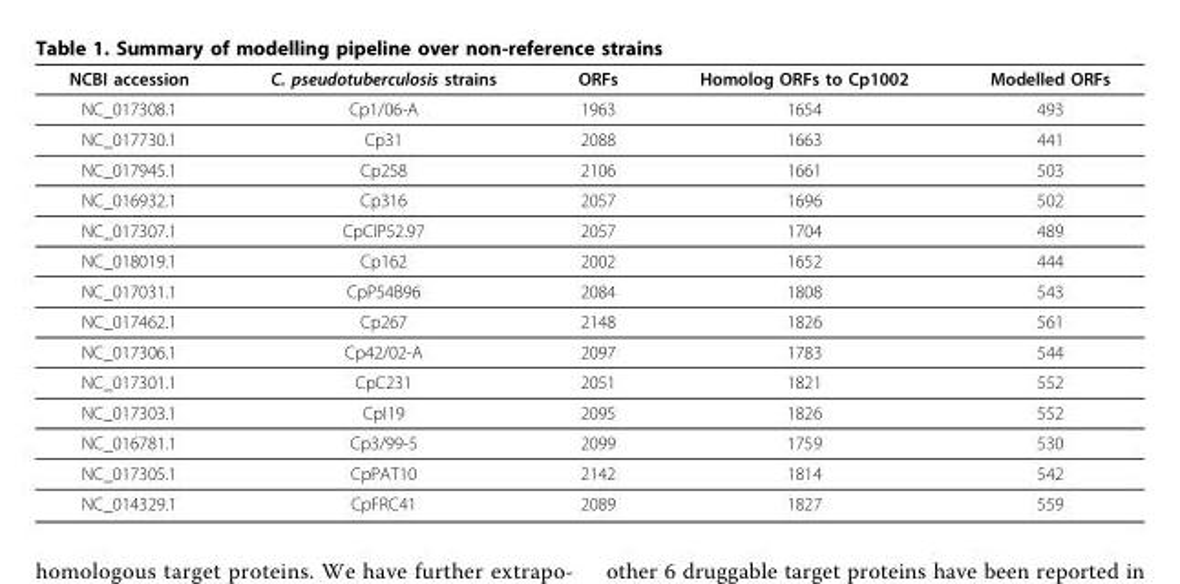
<table><thead><tr><td>NCBI accession</td><td>C. pseudotuberculosis strains</td><td>ORFs</td><td>Homolog ORFs to Cp1002</td><td>Modelled ORFs</td></tr></thead><tbody><tr><td>NC_017308.1</td><td>Cp1/06-A</td><td>1963</td><td>1654</td><td>493</td></tr><tr><td>NC_017730.1</td><td>Cp31</td><td>2088</td><td>1663</td><td>441</td></tr><tr><td>NC_017945.1</td><td>Cp258</td><td>2106</td><td>1661</td><td>503</td></tr><tr><td>NC_016932.1</td><td>Cp316</td><td>2057</td><td>1696</td><td>502</td></tr><tr><td>NC_017307.1</td><td>CpCIP52.97</td><td>2057</td><td>1704</td><td>489</td></tr><tr><td>NC_018019.1</td><td>Cp162</td><td>2002</td><td>1652</td><td>444</td></tr><tr><td>NC_017031.1</td><td>CpP54B96</td><td>2084</td><td>1808</td><td>543</td></tr><tr><td>NC_017462.1</td><td>Cp267</td><td>2148</td><td>1826</td><td>561</td></tr><tr><td>NC_017306.1</td><td>Cp42/02-A</td><td>2097</td><td>1783</td><td>544</td></tr><tr><td>NC_017301.1</td><td>CpC231</td><td>2051</td><td>1821</td><td>552</td></tr><tr><td>NC_017303.1</td><td>CpI19</td><td>2095</td><td>1826</td><td>552</td></tr><tr><td>NC_016781.1</td><td>Cp3/99-5</td><td>2099</td><td>1759</td><td>530</td></tr><tr><td>NC_017305.1</td><td>CpPAT10</td><td>2142</td><td>1814</td><td>542</td></tr><tr><td>NC_014329.1</td><td>CpFRC41</td><td>2089</td><td>1827</td><td>559</td></tr></tbody></table>